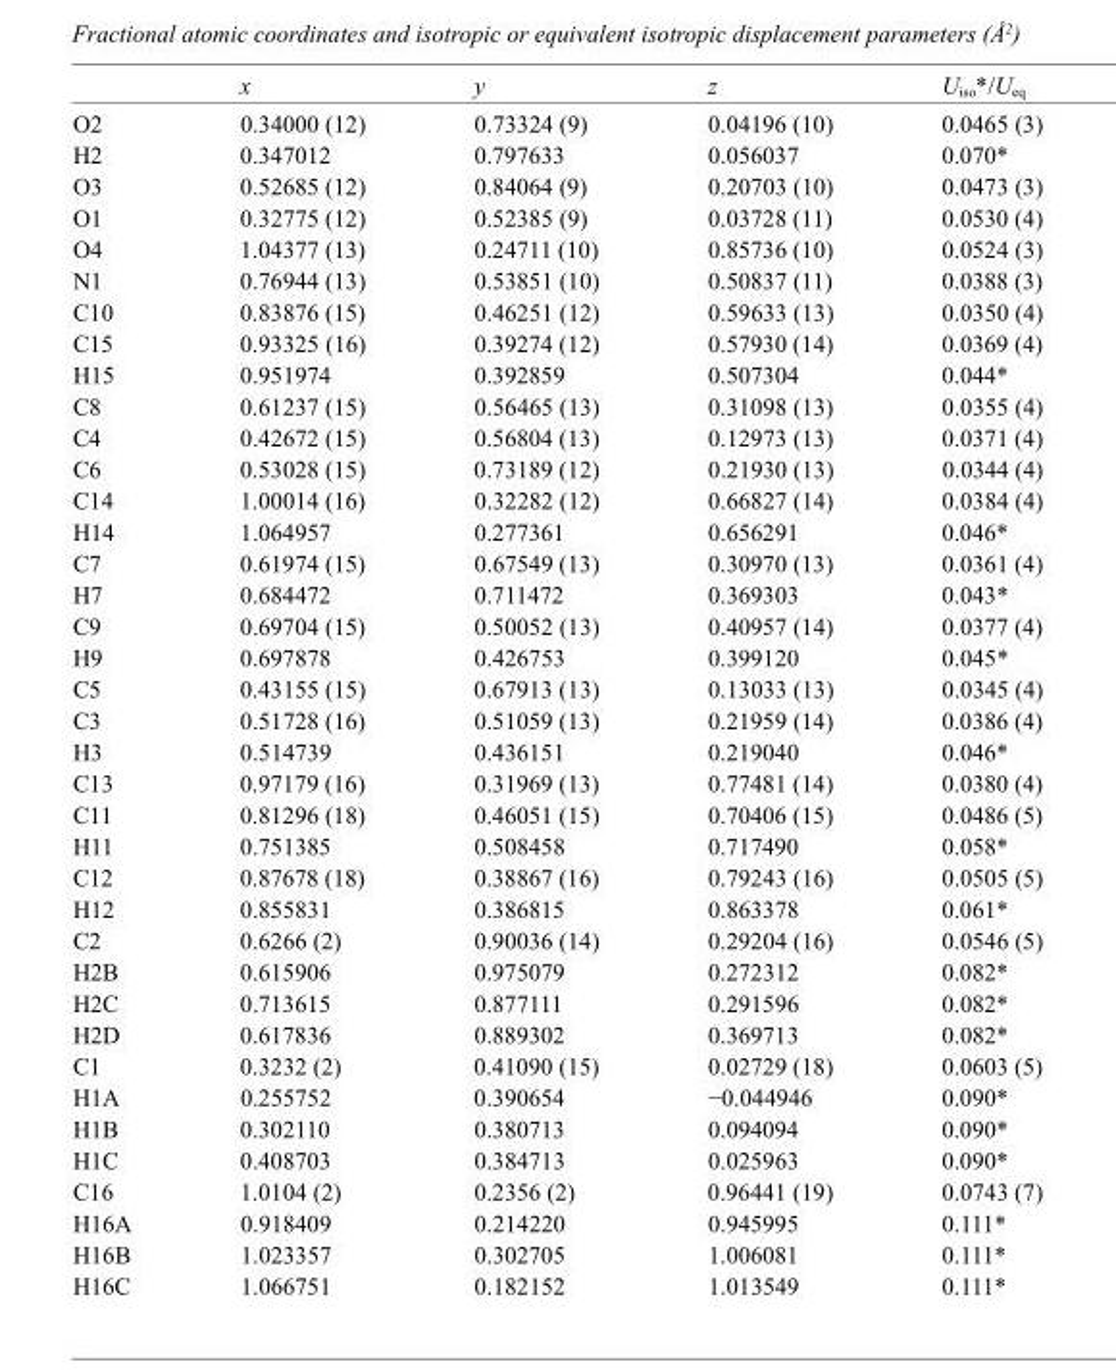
<table><thead><tr><td></td><td>x</td><td>y</td><td>z</td><td>U<sub>iso</sub>*/U<sub>eq</sub></td></tr></thead><tbody><tr><td>O2</td><td>0.34000 (12)</td><td>0.73324 (9)</td><td>0.04196 (10)</td><td>0.0465 (3)</td></tr><tr><td>H2</td><td>0.347012</td><td>0.797633</td><td>0.056037</td><td>0.070*</td></tr><tr><td>O3</td><td>0.52685 (12)</td><td>0.84064 (9)</td><td>0.20703 (10)</td><td>0.0473 (3)</td></tr><tr><td>O1</td><td>0.32775 (12)</td><td>0.52385 (9)</td><td>0.03728 (11)</td><td>0.0530 (4)</td></tr><tr><td>O4</td><td>1.04377 (13)</td><td>0.24711 (10)</td><td>0.85736 (10)</td><td>0.0524 (3)</td></tr><tr><td>N1</td><td>0.76944 (13)</td><td>0.53851 (10)</td><td>0.50837 (11)</td><td>0.0388 (3)</td></tr><tr><td>C10</td><td>0.83876 (15)</td><td>0.46251 (12)</td><td>0.59633 (13)</td><td>0.0350 (4)</td></tr><tr><td>C15</td><td>0.93325 (16)</td><td>0.39274 (12)</td><td>0.57930 (14)</td><td>0.0369 (4)</td></tr><tr><td>H15</td><td>0.951974</td><td>0.392859</td><td>0.507304</td><td>0.044*</td></tr><tr><td>C8</td><td>0.61237 (15)</td><td>0.56465 (13)</td><td>0.31098 (13)</td><td>0.0355 (4)</td></tr><tr><td>C4</td><td>0.42672 (15)</td><td>0.56804 (13)</td><td>0.12973 (13)</td><td>0.0371 (4)</td></tr><tr><td>C6</td><td>0.53028 (15)</td><td>0.73189 (12)</td><td>0.21930 (13)</td><td>0.0344 (4)</td></tr><tr><td>C14</td><td>1.00014 (16)</td><td>0.32282 (12)</td><td>0.66827 (14)</td><td>0.0384 (4)</td></tr><tr><td>H14</td><td>1.064957</td><td>0.277361</td><td>0.656291</td><td>0.046*</td></tr><tr><td>C7</td><td>0.61974 (15)</td><td>0.67549 (13)</td><td>0.30970 (13)</td><td>0.0361 (4)</td></tr><tr><td>H7</td><td>0.684472</td><td>0.711472</td><td>0.369303</td><td>0.043*</td></tr><tr><td>C9</td><td>0.69704 (15)</td><td>0.50052 (13)</td><td>0.40957 (14)</td><td>0.0377 (4)</td></tr><tr><td>H9</td><td>0.697878</td><td>0.426753</td><td>0.399120</td><td>0.045*</td></tr><tr><td>C5</td><td>0.43155 (15)</td><td>0.67913 (13)</td><td>0.13033 (13)</td><td>0.0345 (4)</td></tr><tr><td>C3</td><td>0.51728 (16)</td><td>0.51059 (13)</td><td>0.21959 (14)</td><td>0.0386 (4)</td></tr><tr><td>H3</td><td>0.514739</td><td>0.436151</td><td>0.219040</td><td>0.046*</td></tr><tr><td>C13</td><td>0.97179 (16)</td><td>0.31969 (13)</td><td>0.77481 (14)</td><td>0.0380 (4)</td></tr><tr><td>C11</td><td>0.81296 (18)</td><td>0.46051 (15)</td><td>0.70406 (15)</td><td>0.0486 (5)</td></tr><tr><td>H11</td><td>0.751385</td><td>0.508458</td><td>0.717490</td><td>0.058*</td></tr><tr><td>C12</td><td>0.87678 (18)</td><td>0.38867 (16)</td><td>0.79243 (16)</td><td>0.0505 (5)</td></tr><tr><td>H12</td><td>0.855831</td><td>0.386815</td><td>0.863378</td><td>0.061*</td></tr><tr><td>C2</td><td>0.6266 (2)</td><td>0.90036 (14)</td><td>0.29204 (16)</td><td>0.0546 (5)</td></tr><tr><td>H2B</td><td>0.615906</td><td>0.975079</td><td>0.272312</td><td>0.082*</td></tr><tr><td>H2C</td><td>0.713615</td><td>0.877111</td><td>0.291596</td><td>0.082*</td></tr><tr><td>H2D</td><td>0.617836</td><td>0.889302</td><td>0.369713</td><td>0.082*</td></tr><tr><td>C1</td><td>0.3232 (2)</td><td>0.41090 (15)</td><td>0.02729 (18)</td><td>0.0603 (5)</td></tr><tr><td>H1A</td><td>0.255752</td><td>0.390654</td><td>−0.044946</td><td>0.090*</td></tr><tr><td>H1B</td><td>0.302110</td><td>0.380713</td><td>0.094094</td><td>0.090*</td></tr><tr><td>H1C</td><td>0.408703</td><td>0.384713</td><td>0.025963</td><td>0.090*</td></tr><tr><td>C16</td><td>1.0104 (2)</td><td>0.2356 (2)</td><td>0.96441 (19)</td><td>0.0743 (7)</td></tr><tr><td>H16A</td><td>0.918409</td><td>0.214220</td><td>0.945995</td><td>0.111*</td></tr><tr><td>H16B</td><td>1.023357</td><td>0.302705</td><td>1.006081</td><td>0.111*</td></tr><tr><td>H16C</td><td>1.066751</td><td>0.182152</td><td>1.013549</td><td>0.111*</td></tr></tbody></table>